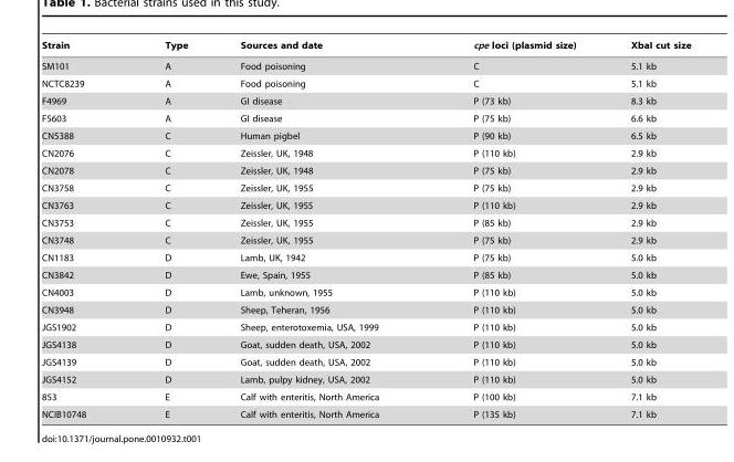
<table><thead><tr><td>Strain</td><td>Type</td><td>Sources and date</td><td>cpe loci (plasmid size)</td><td>XbaI cut size</td></tr></thead><tbody><tr><td>SM101</td><td>A</td><td>Food poisoning</td><td>C</td><td>5.1 kb</td></tr><tr><td>NCTC8239</td><td>A</td><td>Food poisoning</td><td>C</td><td>5.1 kb</td></tr><tr><td>F4969</td><td>A</td><td>GI disease</td><td>P (73 kb)</td><td>8.3 kb</td></tr><tr><td>F5603</td><td>A</td><td>GI disease</td><td>P (75 kb)</td><td>6.6 kb</td></tr><tr><td>CN5388</td><td>C</td><td>Human pigbel</td><td>P (90 kb)</td><td>6.5 kb</td></tr><tr><td>CN2076</td><td>C</td><td>Zeissler, UK, 1948</td><td>P (110 kb)</td><td>2.9 kb</td></tr><tr><td>CN2078</td><td>C</td><td>Zeissler, UK, 1948</td><td>P (75 kb)</td><td>2.9 kb</td></tr><tr><td>CN3758</td><td>C</td><td>Zeissler, UK, 1955</td><td>P (75 kb)</td><td>2.9 kb</td></tr><tr><td>CN3763</td><td>C</td><td>Zeissler, UK, 1955</td><td>P (110 kb)</td><td>2.9 kb</td></tr><tr><td>CN3753</td><td>C</td><td>Zeissler, UK, 1955</td><td>P (85 kb)</td><td>2.9 kb</td></tr><tr><td>CN3748</td><td>C</td><td>Zeissler, UK, 1955</td><td>P (75 kb)</td><td>2.9 kb</td></tr><tr><td>CN1183</td><td>D</td><td>Lamb, UK, 1942</td><td>P (75 kb)</td><td>5.0 kb</td></tr><tr><td>CN3842</td><td>D</td><td>Ewe, Spain, 1955</td><td>P (85 kb)</td><td>5.0 kb</td></tr><tr><td>CN4003</td><td>D</td><td>Lamb, unknown, 1955</td><td>P (110 kb)</td><td>5.0 kb</td></tr><tr><td>CN3948</td><td>D</td><td>Sheep, Teheran, 1956</td><td>P (110 kb)</td><td>5.0 kb</td></tr><tr><td>JGS1902</td><td>D</td><td>Sheep, enterotoxemia, USA, 1999</td><td>P (110 kb)</td><td>5.0 kb</td></tr><tr><td>JGS4138</td><td>D</td><td>Goat, sudden death, USA, 2002</td><td>P (110 kb)</td><td>5.0 kb</td></tr><tr><td>JGS4139</td><td>D</td><td>Goat, sudden death, USA, 2002</td><td>P (110 kb)</td><td>5.0 kb</td></tr><tr><td>JGS4152</td><td>D</td><td>Lamb, pulpy kidney, USA, 2002</td><td>P (110 kb)</td><td>5.0 kb</td></tr><tr><td>853</td><td>E</td><td>Calf with enteritis, North America</td><td>P (100 kb)</td><td>7.1 kb</td></tr><tr><td>NCIB10748</td><td>E</td><td>Calf with enteritis, North America</td><td>P (135 kb)</td><td>7.1 kb</td></tr></tbody></table>